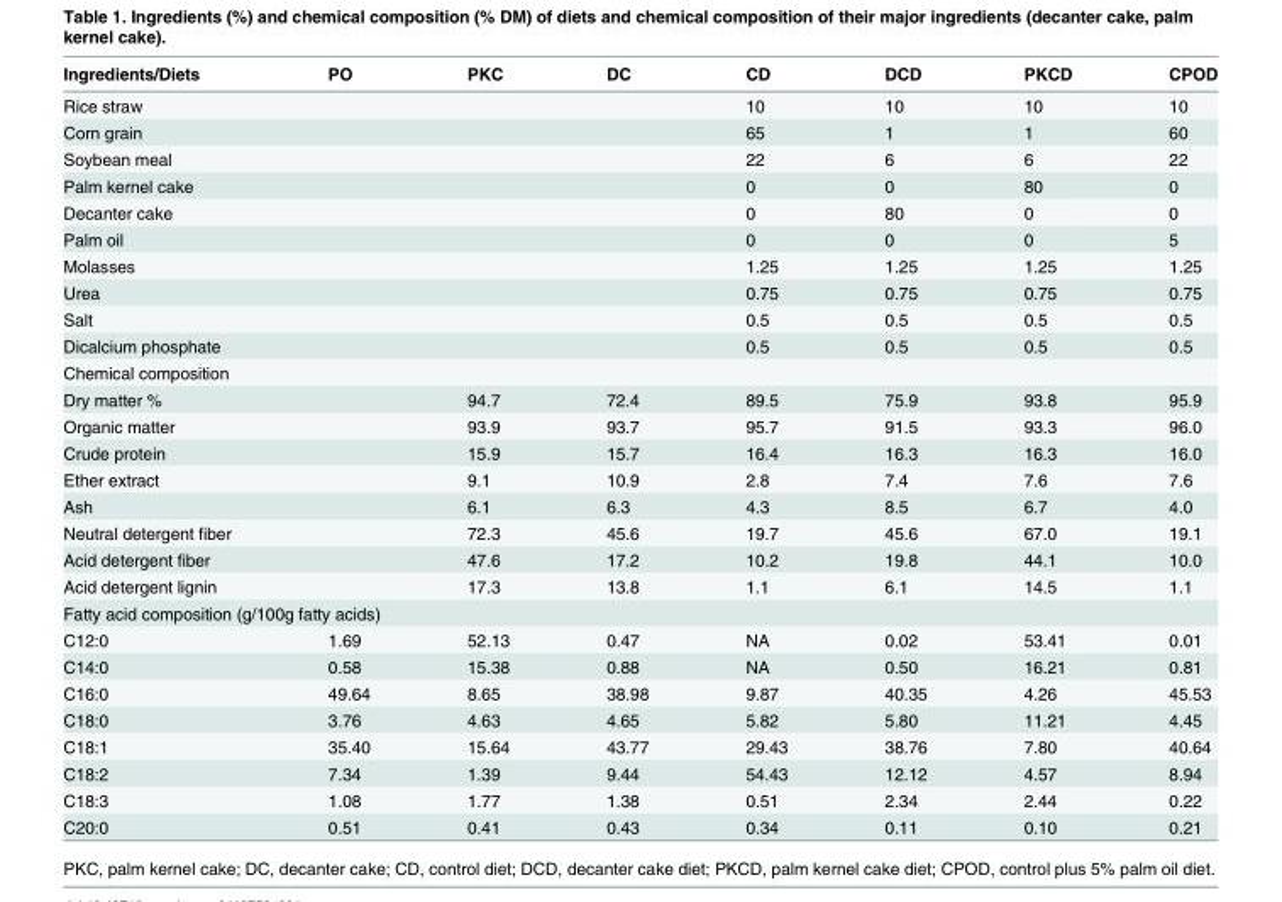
<table><thead><tr><td>Ingredients/Diets</td><td>PO</td><td>PKC</td><td>DC</td><td>CD</td><td>DCD</td><td>PKCD</td><td>CPOD</td></tr></thead><tbody><tr><td>Rice straw</td><td></td><td></td><td></td><td>10</td><td>10</td><td>10</td><td>10</td></tr><tr><td>Corn grain</td><td></td><td></td><td></td><td>65</td><td>1</td><td>1</td><td>60</td></tr><tr><td>Soybean meal</td><td></td><td></td><td></td><td>22</td><td>6</td><td>6</td><td>22</td></tr><tr><td>Palm kernel cake</td><td></td><td></td><td></td><td>0</td><td>0</td><td>80</td><td>0</td></tr><tr><td>Decanter cake</td><td></td><td></td><td></td><td>0</td><td>80</td><td>0</td><td>0</td></tr><tr><td>Palm oil</td><td></td><td></td><td></td><td>0</td><td>0</td><td>0</td><td>5</td></tr><tr><td>Molasses</td><td></td><td></td><td></td><td>1.25</td><td>1.25</td><td>1.25</td><td>1.25</td></tr><tr><td>Urea</td><td></td><td></td><td></td><td>0.75</td><td>0.75</td><td>0.75</td><td>0.75</td></tr><tr><td>Salt</td><td></td><td></td><td></td><td>0.5</td><td>0.5</td><td>0.5</td><td>0.5</td></tr><tr><td>Dicalcium phosphate</td><td></td><td></td><td></td><td>0.5</td><td>0.5</td><td>0.5</td><td>0.5</td></tr><tr><td colspan="8">Chemical composition</td></tr><tr><td>Dry matter %</td><td></td><td>94.7</td><td>72.4</td><td>89.5</td><td>75.9</td><td>93.8</td><td>95.9</td></tr><tr><td>Organic matter</td><td></td><td>93.9</td><td>93.7</td><td>95.7</td><td>91.5</td><td>93.3</td><td>96.0</td></tr><tr><td>Crude protein</td><td></td><td>15.9</td><td>15.7</td><td>16.4</td><td>16.3</td><td>16.3</td><td>16.0</td></tr><tr><td>Ether extract</td><td></td><td>9.1</td><td>10.9</td><td>2.8</td><td>7.4</td><td>7.6</td><td>7.6</td></tr><tr><td>Ash</td><td></td><td>6.1</td><td>6.3</td><td>4.3</td><td>8.5</td><td>6.7</td><td>4.0</td></tr><tr><td>Neutral detergent fiber</td><td></td><td>72.3</td><td>45.6</td><td>19.7</td><td>45.6</td><td>67.0</td><td>19.1</td></tr><tr><td>Acid detergent fiber</td><td></td><td>47.6</td><td>17.2</td><td>10.2</td><td>19.8</td><td>44.1</td><td>10.0</td></tr><tr><td>Acid detergent lignin</td><td></td><td>17.3</td><td>13.8</td><td>1.1</td><td>6.1</td><td>14.5</td><td>1.1</td></tr><tr><td colspan="8">Fatty acid composition (g/100g fatty acids)</td></tr><tr><td>C12:0</td><td>1.69</td><td>52.13</td><td>0.47</td><td>NA</td><td>0.02</td><td>53.41</td><td>0.01</td></tr><tr><td>C14:0</td><td>0.58</td><td>15.38</td><td>0.88</td><td>NA</td><td>0.50</td><td>16.21</td><td>0.81</td></tr><tr><td>C16:0</td><td>49.64</td><td>8.65</td><td>38.98</td><td>9.87</td><td>40.35</td><td>4.26</td><td>45.53</td></tr><tr><td>C18:0</td><td>3.76</td><td>4.63</td><td>4.65</td><td>5.82</td><td>5.80</td><td>11.21</td><td>4.45</td></tr><tr><td>C18:1</td><td>35.40</td><td>15.64</td><td>43.77</td><td>29.43</td><td>38.76</td><td>7.80</td><td>40.64</td></tr><tr><td>C18:2</td><td>7.34</td><td>1.39</td><td>9.44</td><td>54.43</td><td>12.12</td><td>4.57</td><td>8.94</td></tr><tr><td>C18:3</td><td>1.08</td><td>1.77</td><td>1.38</td><td>0.51</td><td>2.34</td><td>2.44</td><td>0.22</td></tr><tr><td>C20:0</td><td>0.51</td><td>0.41</td><td>0.43</td><td>0.34</td><td>0.11</td><td>0.10</td><td>0.21</td></tr></tbody></table>